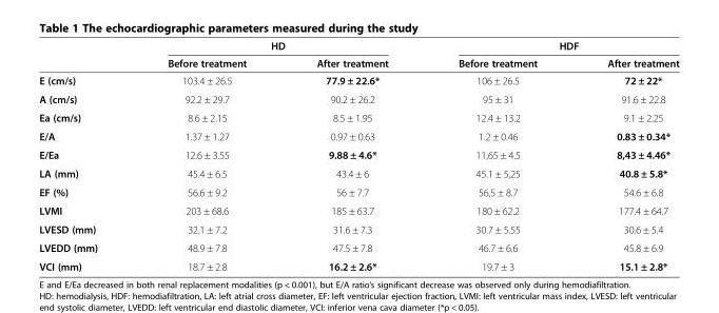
<table><thead><tr><td rowspan="2"></td><td colspan="2">HD</td><td colspan="2">HDF</td></tr><tr><td>Before treatment</td><td>After treatment</td><td>Before treatment</td><td>After treatment</td></tr></thead><tbody><tr><td>E (cm/s)</td><td>103.4 ± 26.5</td><td>77.9 ± 22.6*</td><td>106 ± 26.5</td><td>72 ± 22*</td></tr><tr><td>A (cm/s)</td><td>92.2 ± 29.7</td><td>90.2 ± 26.2</td><td>95 ± 31</td><td>91.6 ± 22.8</td></tr><tr><td>Ea (cm/s)</td><td>8.6 ± 2.15</td><td>8.5 ± 1.95</td><td>12.4 ± 13.2</td><td>9.1 ± 2.25</td></tr><tr><td>E/A</td><td>1.37 ± 1.27</td><td>0.97 ± 0.63</td><td>1.2 ± 0.46</td><td>0.83 ± 0.34*</td></tr><tr><td>E/Ea</td><td>12.6 ± 3.55</td><td>9.88 ± 4.6*</td><td>11,65 ± 4.5</td><td>8,43 ± 4.46*</td></tr><tr><td>LA (mm)</td><td>45.4 ± 6.5</td><td>43.4 ± 6</td><td>45.1 ± 5,25</td><td>40.8 ± 5.8*</td></tr><tr><td>EF (%)</td><td>56.6 ± 9.2</td><td>56 ± 7.7</td><td>56,5 ± 8.7</td><td>54.6 ± 6.8</td></tr><tr><td>LVMI</td><td>203 ± 68.6</td><td>185 ± 63.7</td><td>180 ± 62.2</td><td>177.4 ± 64.7</td></tr><tr><td>LVESD (mm)</td><td>32.1 ± 7.2</td><td>31.6 ± 7.3</td><td>30.7 ± 5.55</td><td>30.6 ± 5.4</td></tr><tr><td>LVEDD (mm)</td><td>48.9 ± 7.8</td><td>47.5 ± 7.8</td><td>46.7 ± 6.6</td><td>45.8 ± 6.9</td></tr><tr><td>VCI (mm)</td><td>18.7 ± 2.8</td><td>16.2 ± 2.6*</td><td>19.7 ± 3</td><td>15.1 ± 2.8*</td></tr></tbody></table>